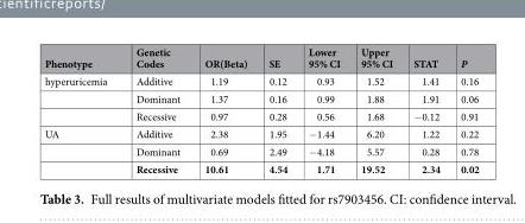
<table><thead><tr><td>Phenotype</td><td>Genetic Codes</td><td>OR(Beta)</td><td>SE</td><td>Lower 95% CI</td><td>Upper 95% CI</td><td>STAT</td><td>P</td></tr></thead><tbody><tr><td rowspan="3">hyperuricemia</td><td>Additive</td><td>1.19</td><td>0.12</td><td>0.93</td><td>1.52</td><td>1.41</td><td>0.16</td></tr><tr><td>Dominant</td><td>1.37</td><td>0.16</td><td>0.99</td><td>1.88</td><td>1.91</td><td>0.06</td></tr><tr><td>Recessive</td><td>0.97</td><td>0.28</td><td>0.56</td><td>1.68</td><td>−0.12</td><td>0.91</td></tr><tr><td rowspan="3">UA</td><td>Additive</td><td>2.38</td><td>1.95</td><td>−1.44</td><td>6.20</td><td>1.22</td><td>0.22</td></tr><tr><td>Dominant</td><td>0.69</td><td>2.49</td><td>−4.18</td><td>5.57</td><td>0.28</td><td>0.78</td></tr><tr><td>Recessive</td><td>10.61</td><td>4.54</td><td>1.71</td><td>19.52</td><td>2.34</td><td>0.02</td></tr></tbody></table>